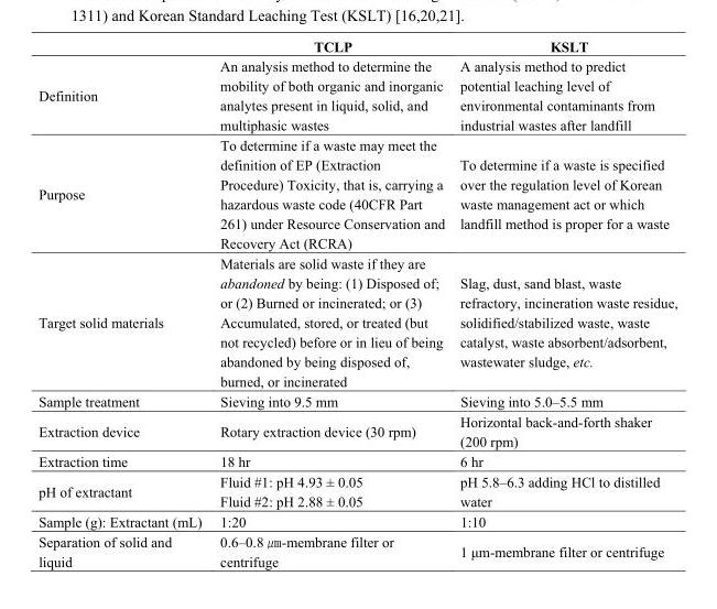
<table><thead><tr><td></td><td>TCLP</td><td>KSLT</td></tr></thead><tbody><tr><td>Definition</td><td>An analysis method to determine the mobility of both organic and inorganic analytes present in liquid, solid, and multiphasic wastes</td><td>A analysis method to predict potential leaching level of environmental contaminants from industrial wastes after landfill</td></tr><tr><td>Purpose</td><td>To determine if a waste may meet the definition of EP (Extraction Procedure) Toxicity, that is, carrying a hazardous waste code (40CFR Part 261) under Resource Conservation and Recovery Act (RCRA)</td><td>To determine if a waste is specified over the regulation level of Korean waste management act or which landfill method is proper for a waste</td></tr><tr><td>Target solid materials</td><td>Materials are solid waste if they are abandoned by being: (1) Disposed of; or (2) Burned or incinerated; or (3) Accumulated, stored, or treated (but not recycled) before or in lieu of being abandoned by being disposed of, burned, or incinerated</td><td>Slag, dust, sand blast, waste refractory, incineration waste residue, solidified/stabilized waste, waste catalyst, waste absorbent/adsorbent, wastewater sludge, etc.</td></tr><tr><td>Sample treatment</td><td>Sieving into 9.5 mm</td><td>Sieving into 5.0–5.5 mm</td></tr><tr><td>Extraction device</td><td>Rotary extraction device (30 rpm)</td><td>Horizontal back-and-forth shaker (200 rpm)</td></tr><tr><td>Extraction time</td><td>18 hr</td><td>6 hr</td></tr><tr><td>pH of extractant</td><td>Fluid #1: pH 4.93 ± 0.05 Fluid #2: pH 2.88 ± 0.05</td><td>pH 5.8–6.3 adding HCl to distilled water</td></tr><tr><td>Sample (g): Extractant (mL)</td><td>1:20</td><td>1:10</td></tr><tr><td>Separation of solid and liquid</td><td>0.6–0.8 ㎛-membrane filter or centrifuge</td><td>1 μm-membrane filter or centrifuge</td></tr></tbody></table>